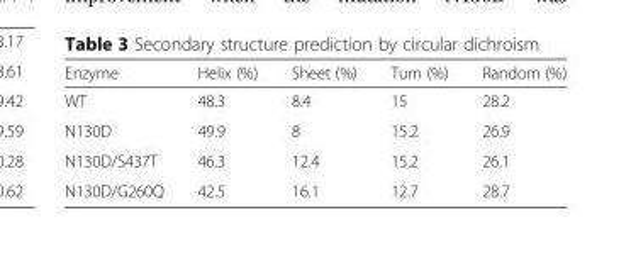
<table><thead><tr><td>Enzyme</td><td>Helix (%)</td><td>Sheet (%)</td><td>Turn (%)</td><td>Random (%)</td></tr></thead><tbody><tr><td>WT</td><td>48.3</td><td>8.4</td><td>15</td><td>28.2</td></tr><tr><td>N130D</td><td>49.9</td><td>8</td><td>15.2</td><td>26.9</td></tr><tr><td>N130D/S437T</td><td>46.3</td><td>12.4</td><td>15.2</td><td>26.1</td></tr><tr><td>N130D/G260Q</td><td>42.5</td><td>16.1</td><td>12.7</td><td>28.7</td></tr></tbody></table>